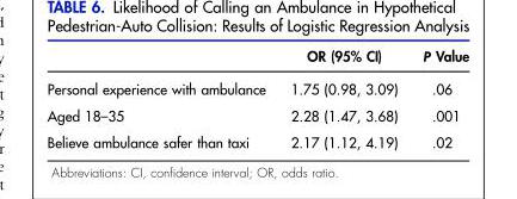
<table><thead><tr><td></td><td>OR (95% CI)</td><td>P Value</td></tr></thead><tbody><tr><td>Personal experience with ambulance</td><td>1.75 (0.98, 3.09)</td><td>.06</td></tr><tr><td>Aged 18–35</td><td>2.28 (1.47, 3.68)</td><td>.001</td></tr><tr><td>Believe ambulance safer than taxi</td><td>2.17 (1.12, 4.19)</td><td>.02</td></tr></tbody></table>